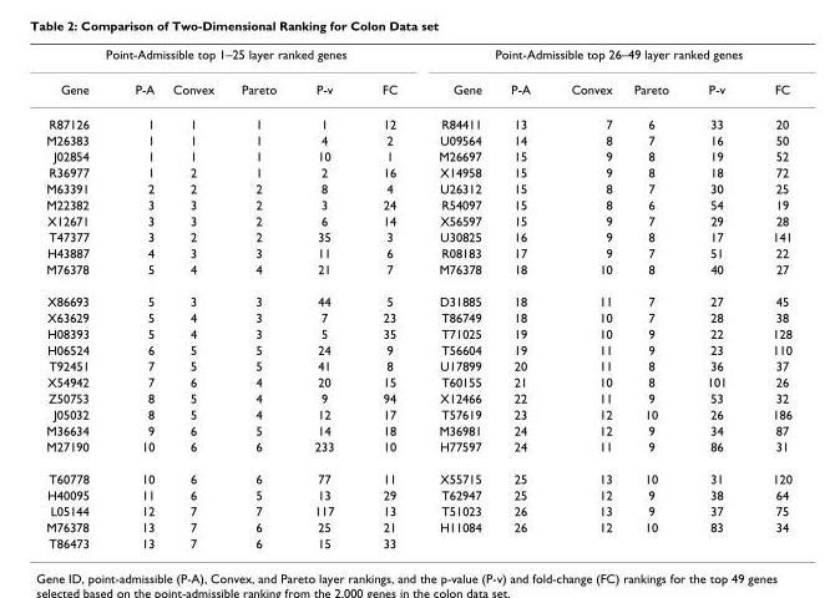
<table><thead><tr><td colspan="6">Point-Admissible top 1–25 layer ranked genes</td><td colspan="6">Point-Admissible top 26–49 layer ranked genes</td></tr><tr><td>Gene</td><td>P-A</td><td>Convex</td><td>Pareto</td><td>P-v</td><td>FC</td><td>Gene</td><td>P-A</td><td>Convex</td><td>Pareto</td><td>P-v</td><td>FC</td></tr></thead><tbody><tr><td>R87126</td><td>1</td><td>1</td><td>1</td><td>1</td><td>12</td><td>R84411</td><td>13</td><td>7</td><td>6</td><td>33</td><td>20</td></tr><tr><td>M26383</td><td>1</td><td>1</td><td>1</td><td>4</td><td>2</td><td>U09564</td><td>14</td><td>8</td><td>7</td><td>16</td><td>50</td></tr><tr><td>J02854</td><td>1</td><td>1</td><td>1</td><td>10</td><td>1</td><td>M26697</td><td>15</td><td>9</td><td>8</td><td>19</td><td>52</td></tr><tr><td>R36977</td><td>1</td><td>2</td><td>1</td><td>2</td><td>16</td><td>X14958</td><td>15</td><td>9</td><td>8</td><td>18</td><td>72</td></tr><tr><td>M63391</td><td>2</td><td>2</td><td>2</td><td>8</td><td>4</td><td>U26312</td><td>15</td><td>8</td><td>7</td><td>30</td><td>25</td></tr><tr><td>M22382</td><td>3</td><td>3</td><td>2</td><td>3</td><td>24</td><td>R54097</td><td>15</td><td>8</td><td>6</td><td>54</td><td>19</td></tr><tr><td>X12671</td><td>3</td><td>3</td><td>2</td><td>6</td><td>14</td><td>X56597</td><td>15</td><td>9</td><td>7</td><td>29</td><td>28</td></tr><tr><td>T47377</td><td>3</td><td>2</td><td>2</td><td>35</td><td>3</td><td>U30825</td><td>16</td><td>9</td><td>8</td><td>17</td><td>141</td></tr><tr><td>H43887</td><td>4</td><td>3</td><td>3</td><td>11</td><td>6</td><td>R08183</td><td>17</td><td>9</td><td>7</td><td>51</td><td>22</td></tr><tr><td>M76378</td><td>5</td><td>4</td><td>4</td><td>21</td><td>7</td><td>M76378</td><td>18</td><td>10</td><td>8</td><td>40</td><td>27</td></tr><tr><td>X86693</td><td>5</td><td>3</td><td>3</td><td>44</td><td>5</td><td>D31885</td><td>18</td><td>11</td><td>7</td><td>27</td><td>45</td></tr><tr><td>X63629</td><td>5</td><td>4</td><td>3</td><td>7</td><td>23</td><td>T86749</td><td>18</td><td>10</td><td>7</td><td>28</td><td>38</td></tr><tr><td>H08393</td><td>5</td><td>4</td><td>3</td><td>5</td><td>35</td><td>T71025</td><td>19</td><td>10</td><td>9</td><td>22</td><td>128</td></tr><tr><td>H06524</td><td>6</td><td>5</td><td>5</td><td>24</td><td>9</td><td>T56604</td><td>19</td><td>11</td><td>9</td><td>23</td><td>110</td></tr><tr><td>T92451</td><td>7</td><td>5</td><td>5</td><td>41</td><td>8</td><td>U17899</td><td>20</td><td>11</td><td>8</td><td>36</td><td>37</td></tr><tr><td>X54942</td><td>7</td><td>6</td><td>4</td><td>20</td><td>15</td><td>T60155</td><td>21</td><td>10</td><td>8</td><td>101</td><td>26</td></tr><tr><td>Z50753</td><td>8</td><td>5</td><td>4</td><td>9</td><td>94</td><td>X12466</td><td>22</td><td>11</td><td>9</td><td>53</td><td>32</td></tr><tr><td>J05032</td><td>8</td><td>5</td><td>4</td><td>12</td><td>17</td><td>T57619</td><td>23</td><td>12</td><td>10</td><td>26</td><td>186</td></tr><tr><td>M36634</td><td>9</td><td>6</td><td>5</td><td>14</td><td>18</td><td>M36981</td><td>24</td><td>12</td><td>9</td><td>34</td><td>87</td></tr><tr><td>M27190</td><td>10</td><td>6</td><td>6</td><td>233</td><td>10</td><td>H77597</td><td>24</td><td>11</td><td>9</td><td>86</td><td>31</td></tr><tr><td>T60778</td><td>10</td><td>6</td><td>6</td><td>77</td><td>11</td><td>X55715</td><td>25</td><td>13</td><td>10</td><td>31</td><td>120</td></tr><tr><td>H40095</td><td>11</td><td>6</td><td>5</td><td>13</td><td>29</td><td>T62947</td><td>25</td><td>12</td><td>9</td><td>38</td><td>64</td></tr><tr><td>L05144</td><td>12</td><td>7</td><td>7</td><td>117</td><td>13</td><td>T51023</td><td>26</td><td>13</td><td>9</td><td>37</td><td>75</td></tr><tr><td>M76378</td><td>13</td><td>7</td><td>6</td><td>25</td><td>21</td><td>H11084</td><td>26</td><td>12</td><td>10</td><td>83</td><td>34</td></tr><tr><td>T86473</td><td>13</td><td>7</td><td>6</td><td>15</td><td>33</td><td></td><td></td><td></td><td></td><td></td><td></td></tr></tbody></table>